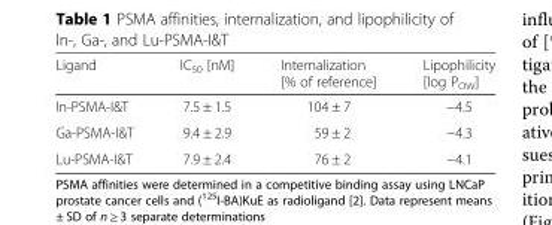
<table><thead><tr><td>Ligand</td><td>IC<sub>50</sub> [nM]</td><td>Internalization [% of reference]</td><td>Lipophilicity [log P<sub>OW</sub>]</td></tr></thead><tbody><tr><td>In-PSMA-I&amp;T</td><td>7.5 ± 1.5</td><td>104 ± 7</td><td>−4.5</td></tr><tr><td>Ga-PSMA-I&amp;T</td><td>9.4 ± 2.9</td><td>59 ± 2</td><td>−4.3</td></tr><tr><td>Lu-PSMA-I&amp;T</td><td>7.9 ± 2.4</td><td>76 ± 2</td><td>−4.1</td></tr></tbody></table>